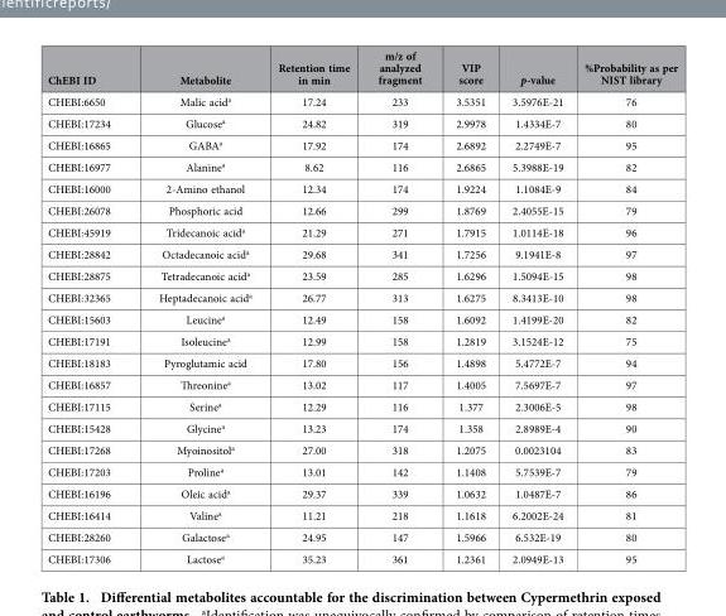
<table><thead><tr><td>ChEBI ID</td><td>Metabolite</td><td>Retention time in min</td><td>m/z of analyzed fragment</td><td>VIP score</td><td>p-value</td><td>%Probability as per NIST library</td></tr></thead><tbody><tr><td>CHEBI:6650</td><td>Malic acid<sup>a</sup></td><td>17.24</td><td>233</td><td>3.5351</td><td>3.5976E-21</td><td>76</td></tr><tr><td>CHEBI:17234</td><td>Glucose<sup>a</sup></td><td>24.82</td><td>319</td><td>2.9978</td><td>1.4334E-7</td><td>80</td></tr><tr><td>CHEBI:16865</td><td>GABA<sup>a</sup></td><td>17.92</td><td>174</td><td>2.6892</td><td>2.2749E-7</td><td>95</td></tr><tr><td>CHEBI:16977</td><td>Alanine<sup>a</sup></td><td>8.62</td><td>116</td><td>2.6865</td><td>5.3988E-19</td><td>82</td></tr><tr><td>CHEBI:16000</td><td>2-Amino ethanol</td><td>12.34</td><td>174</td><td>1.9224</td><td>1.1084E-9</td><td>84</td></tr><tr><td>CHEBI:26078</td><td>Phosphoric acid</td><td>12.66</td><td>299</td><td>1.8769</td><td>2.4055E-15</td><td>79</td></tr><tr><td>CHEBI:45919</td><td>Tridecanoic acid<sup>a</sup></td><td>21.29</td><td>271</td><td>1.7915</td><td>1.0114E-18</td><td>96</td></tr><tr><td>CHEBI:28842</td><td>Octadecanoic acid<sup>a</sup></td><td>29.68</td><td>341</td><td>1.7256</td><td>9.1941E-8</td><td>97</td></tr><tr><td>CHEBI:28875</td><td>Tetradecanoic acid<sup>a</sup></td><td>23.59</td><td>285</td><td>1.6296</td><td>1.5094E-15</td><td>98</td></tr><tr><td>CHEBI:32365</td><td>Heptadecanoic acid<sup>a</sup></td><td>26.77</td><td>313</td><td>1.6275</td><td>8.3413E-10</td><td>98</td></tr><tr><td>CHEBI:15603</td><td>Leucine<sup>a</sup></td><td>12.49</td><td>158</td><td>1.6092</td><td>1.4199E-20</td><td>82</td></tr><tr><td>CHEBI:17191</td><td>Isoleucine<sup>a</sup></td><td>12.99</td><td>158</td><td>1.2819</td><td>3.1524E-12</td><td>75</td></tr><tr><td>CHEBI:18183</td><td>Pyroglutamic acid</td><td>17.80</td><td>156</td><td>1.4898</td><td>5.4772E-7</td><td>94</td></tr><tr><td>CHEBI:16857</td><td>Threonine<sup>a</sup></td><td>13.02</td><td>117</td><td>1.4005</td><td>7.5697E-7</td><td>97</td></tr><tr><td>CHEBI:17115</td><td>Serine<sup>a</sup></td><td>12.29</td><td>116</td><td>1.377</td><td>2.3006E-5</td><td>98</td></tr><tr><td>CHEBI:15428</td><td>Glycine<sup>a</sup></td><td>13.23</td><td>174</td><td>1.358</td><td>2.8989E-4</td><td>90</td></tr><tr><td>CHEBI:17268</td><td>Myoinositol<sup>a</sup></td><td>27.00</td><td>318</td><td>1.2075</td><td>0.0023104</td><td>83</td></tr><tr><td>CHEBI:17203</td><td>Proline<sup>a</sup></td><td>13.01</td><td>142</td><td>1.1408</td><td>5.7539E-7</td><td>79</td></tr><tr><td>CHEBI:16196</td><td>Oleic acid<sup>a</sup></td><td>29.37</td><td>339</td><td>1.0632</td><td>1.0487E-7</td><td>86</td></tr><tr><td>CHEBI:16414</td><td>Valine<sup>a</sup></td><td>11.21</td><td>218</td><td>1.1618</td><td>6.2002E-24</td><td>81</td></tr><tr><td>CHEBI:28260</td><td>Galactose<sup>a</sup></td><td>24.95</td><td>147</td><td>1.5966</td><td>6.532E-19</td><td>80</td></tr><tr><td>CHEBI:17306</td><td>Lactose<sup>a</sup></td><td>35.23</td><td>361</td><td>1.2361</td><td>2.0949E-13</td><td>95</td></tr></tbody></table>